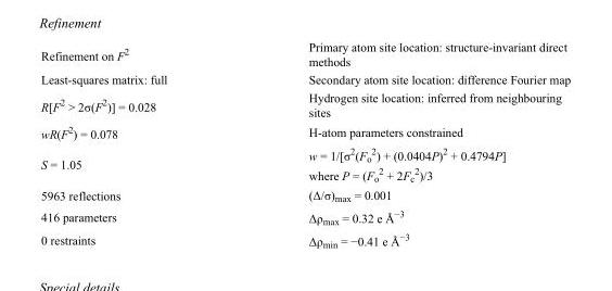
<table><tbody><tr><td>Refinement on F<sup>2</sup></td><td>Primary atom site location: structure-invariant direct methods</td></tr><tr><td>Least-squares matrix: full</td><td>Secondary atom site location: difference Fourier map</td></tr><tr><td>R[F<sup>2</sup> &gt; 2σ(F<sup>2</sup>)] = 0.028</td><td>Hydrogen site location: inferred from neighbouring sites</td></tr><tr><td>wR(F<sup>2</sup>) = 0.078</td><td>H-atom parameters constrained</td></tr><tr><td>S = 1.05</td><td>w = 1/[σ<sup>2</sup>(F<sub>o</sub> <sup>2</sup>) + (0.0404P)<sup>2</sup> + 0.4794P] where P = (F<sub>o</sub> <sup>2</sup> + 2F<sub>c</sub> <sup>2</sup>)/3</td></tr><tr><td>5963 reflections</td><td>(Δ/σ)<sub>max</sub> = 0.001</td></tr><tr><td>416 parameters</td><td>Δρ<sub>max</sub> = 0.32 e Å<sup>−3</sup></td></tr><tr><td>0 restraints</td><td>Δρ<sub>min</sub> = −0.41 e Å<sup>−3</sup></td></tr></tbody></table>